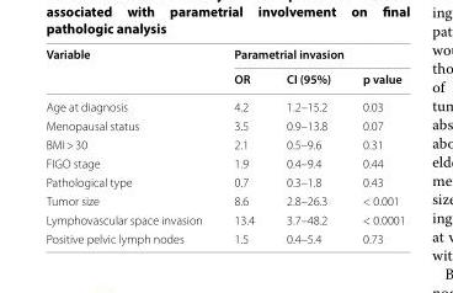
<table><thead><tr><td rowspan="2">Variable</td><td colspan="3">Parametrial invasion</td></tr><tr><td>OR</td><td>CI (95%)</td><td>p value</td></tr></thead><tbody><tr><td>Age at diagnosis</td><td>4.2</td><td>1.2–15.2</td><td>0.03</td></tr><tr><td>Menopausal status</td><td>3.5</td><td>0.9–13.8</td><td>0.07</td></tr><tr><td>BMI &gt; 30</td><td>2.1</td><td>0.5–9.6</td><td>0.31</td></tr><tr><td>FIGO stage</td><td>1.9</td><td>0.4–9.4</td><td>0.44</td></tr><tr><td>Pathological type</td><td>0.7</td><td>0.3–1.8</td><td>0.43</td></tr><tr><td>Tumor size</td><td>8.6</td><td>2.8–26.3</td><td>&lt; 0.001</td></tr><tr><td>Lymphovascular space invasion</td><td>13.4</td><td>3.7–48.2</td><td>&lt; 0.0001</td></tr><tr><td>Positive pelvic lymph nodes</td><td>1.5</td><td>0.4–5.4</td><td>0.73</td></tr></tbody></table>